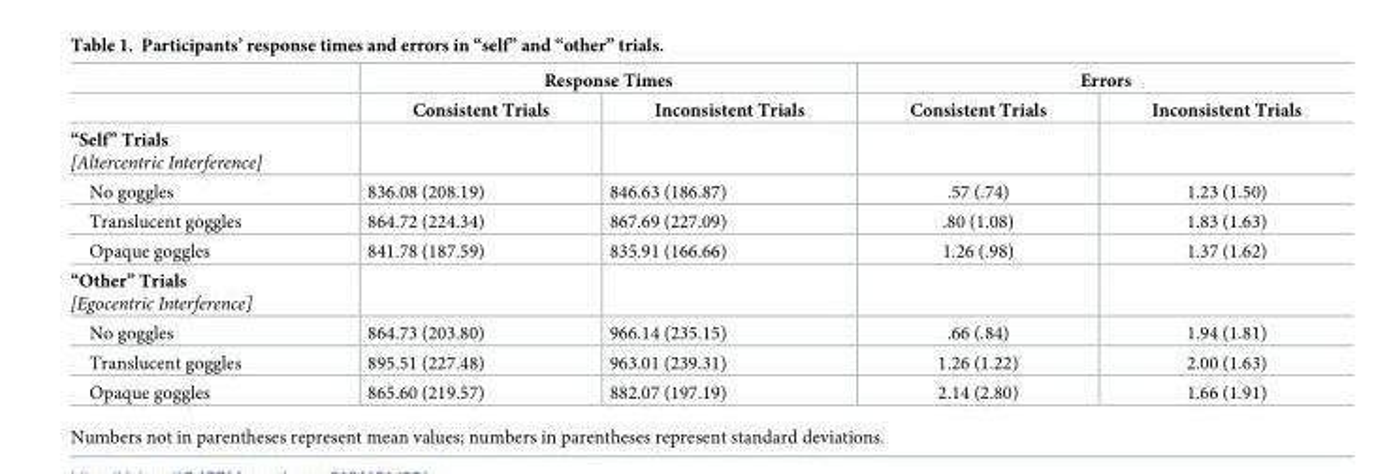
<table><thead><tr><td rowspan="2"></td><td colspan="2">Response Times</td><td colspan="2">Errors</td></tr><tr><td>Consistent Trials</td><td>Inconsistent Trials</td><td>Consistent Trials</td><td>Inconsistent Trials</td></tr></thead><tbody><tr><td colspan="5">“Self” Trials [Altercentric Interference]</td></tr><tr><td>No goggles</td><td>836.08 (208.19)</td><td>846.63 (186.87)</td><td>.57 (.74)</td><td>1.23 (1.50)</td></tr><tr><td>Translucent goggles</td><td>864.72 (224.34)</td><td>867.69 (227.09)</td><td>.80 (1.08)</td><td>1.83 (1.63)</td></tr><tr><td>Opaque goggles</td><td>841.78 (187.59)</td><td>835.91 (166.66)</td><td>1.26 (.98)</td><td>1.37 (1.62)</td></tr><tr><td colspan="5">“Other” Trials [Egocentric Interference]</td></tr><tr><td>No goggles</td><td>864.73 (203.80)</td><td>966.14 (235.15)</td><td>.66 (.84)</td><td>1.94 (1.81)</td></tr><tr><td>Translucent goggles</td><td>895.51 (227.48)</td><td>963.01 (239.31)</td><td>1.26 (1.22)</td><td>2.00 (1.63)</td></tr><tr><td>Opaque goggles</td><td>865.60 (219.57)</td><td>882.07 (197.19)</td><td>2.14 (2.80)</td><td>1.66 (1.91)</td></tr></tbody></table>